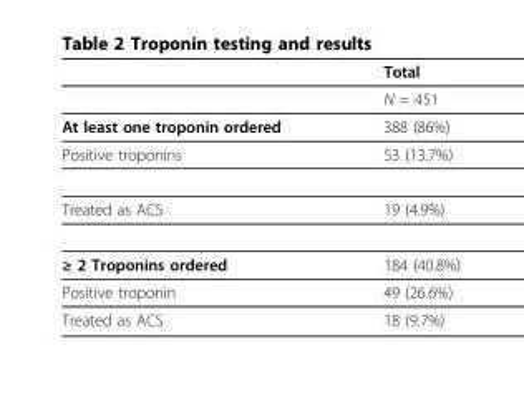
<table><thead><tr><td></td><td>Total</td></tr></thead><tbody><tr><td></td><td>N = 451</td></tr><tr><td>At least one troponin ordered</td><td>388 (86%)</td></tr><tr><td>Positive troponins</td><td>53 (13.7%)</td></tr><tr><td>Treated as ACS</td><td>19 (4.9%)</td></tr><tr><td>≥ 2 Troponins ordered</td><td>184 (40.8%)</td></tr><tr><td>Positive troponin</td><td>49 (26.6%)</td></tr><tr><td>Treated as ACS</td><td>18 (9.7%)</td></tr></tbody></table>